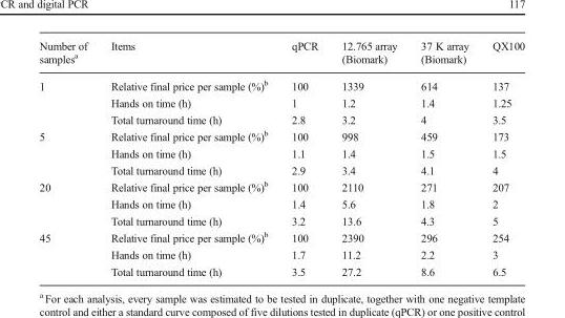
<table><thead><tr><td>Number of samples<sup>a</sup></td><td>Items</td><td>qPCR</td><td>12.765 array (Biomark)</td><td>37 K array (Biomark)</td><td>QX100</td></tr></thead><tbody><tr><td rowspan="3">1</td><td>Relative final price per sample (%)<sup>b</sup></td><td>100</td><td>1339</td><td>614</td><td>137</td></tr><tr><td>Hands on time (h)</td><td>1</td><td>1.2</td><td>1.4</td><td>1.25</td></tr><tr><td>Total turnaround time (h)</td><td>2.8</td><td>3.2</td><td>4</td><td>3.5</td></tr><tr><td rowspan="3">5</td><td>Relative final price per sample (%)<sup>b</sup></td><td>100</td><td>998</td><td>459</td><td>173</td></tr><tr><td>Hands on time (h)</td><td>1.1</td><td>1.4</td><td>1.5</td><td>1.5</td></tr><tr><td>Total turnaround time (h)</td><td>2.9</td><td>3.4</td><td>4.1</td><td>4</td></tr><tr><td rowspan="3">20</td><td>Relative final price per sample (%)<sup>b</sup></td><td>100</td><td>2110</td><td>271</td><td>207</td></tr><tr><td>Hands on time (h)</td><td>1.4</td><td>5.6</td><td>1.8</td><td>2</td></tr><tr><td>Total turnaround time (h)</td><td>3.2</td><td>13.6</td><td>4.3</td><td>5</td></tr><tr><td rowspan="3">45</td><td>Relative final price per sample (%)<sup>b</sup></td><td>100</td><td>2390</td><td>296</td><td>254</td></tr><tr><td>Hands on time (h)</td><td>1.7</td><td>11.2</td><td>2.2</td><td>3</td></tr><tr><td>Total turnaround time (h)</td><td>3.5</td><td>27.2</td><td>8.6</td><td>6.5</td></tr></tbody></table>